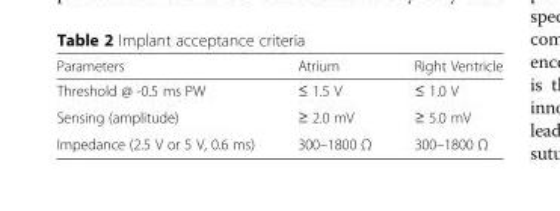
<table><thead><tr><td>Parameters</td><td>Atrium</td><td>Right Ventricle</td></tr></thead><tbody><tr><td>Threshold @ -0.5 ms PW</td><td>≤ 1.5 V</td><td>≤ 1.0 V</td></tr><tr><td>Sensing (amplitude)</td><td>≥ 2.0 mV</td><td>≥ 5.0 mV</td></tr><tr><td>Impedance (2.5 V or 5 V, 0.6 ms)</td><td>300–1800 Ω</td><td>300–1800 Ω</td></tr></tbody></table>